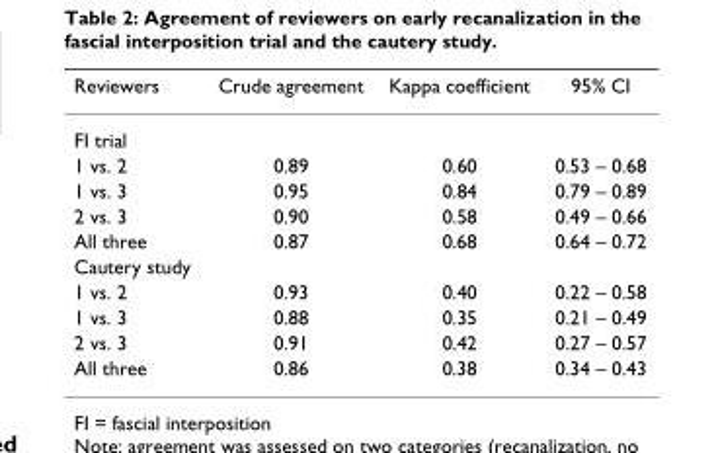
<table><thead><tr><td>Reviewers</td><td>Crude agreement</td><td>Kappa coefficient</td><td>95% CI</td></tr></thead><tbody><tr><td colspan="4">FI trial</td></tr><tr><td>1 vs. 2</td><td>0.89</td><td>0.60</td><td>0.53 – 0.68</td></tr><tr><td>1 vs. 3</td><td>0.95</td><td>0.84</td><td>0.79 – 0.89</td></tr><tr><td>2 vs. 3</td><td>0.90</td><td>0.58</td><td>0.49 – 0.66</td></tr><tr><td>All three</td><td>0.87</td><td>0.68</td><td>0.64 – 0.72</td></tr><tr><td colspan="4">Cautery study</td></tr><tr><td>1 vs. 2</td><td>0.93</td><td>0.40</td><td>0.22 – 0.58</td></tr><tr><td>1 vs. 3</td><td>0.88</td><td>0.35</td><td>0.21 – 0.49</td></tr><tr><td>2 vs. 3</td><td>0.91</td><td>0.42</td><td>0.27 – 0.57</td></tr><tr><td>All three</td><td>0.86</td><td>0.38</td><td>0.34 – 0.43</td></tr></tbody></table>